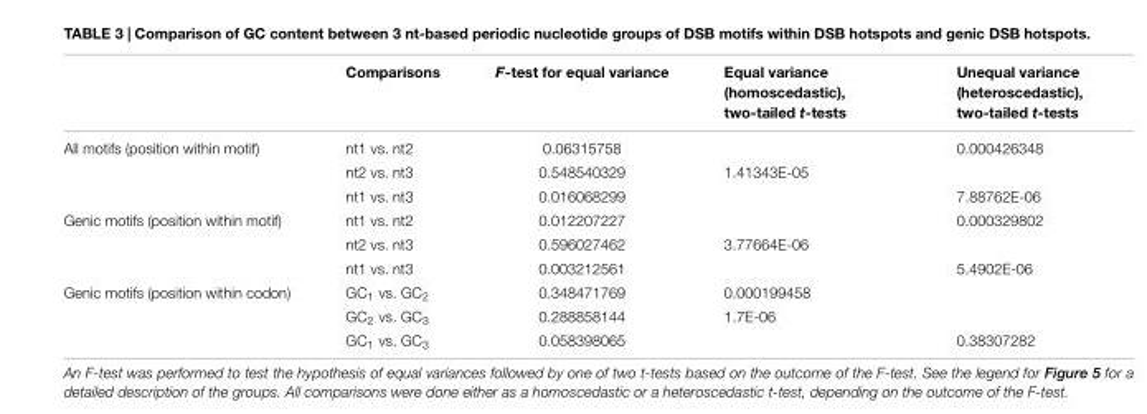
<table><thead><tr><td></td><td>Comparisons</td><td>F-test for equal variance</td><td>Equal variance (homoscedastic), two-tailed t-tests</td><td>Unequal variance (heteroscedastic), two-tailed t-tests</td></tr></thead><tbody><tr><td rowspan="3">All motifs (position within motif)</td><td>nt1 vs. nt2</td><td>0.06315758</td><td></td><td>0.000426348</td></tr><tr><td>nt2 vs. nt3</td><td>0.548540329</td><td>1.41343E-05</td><td></td></tr><tr><td>nt1 vs. nt3</td><td>0.016068299</td><td></td><td>7.88762E-06</td></tr><tr><td rowspan="3">Genic motifs (position within motif)</td><td>nt1 vs. nt2</td><td>0.012207227</td><td></td><td>0.000329802</td></tr><tr><td>nt2 vs. nt3</td><td>0.596027462</td><td>3.77664E-06</td><td></td></tr><tr><td>nt1 vs. nt3</td><td>0.003212561</td><td></td><td>5.4902E-06</td></tr><tr><td rowspan="3">Genic motifs (position within codon)</td><td>GC<sub>1</sub> vs. GC<sub>2</sub></td><td>0.348471769</td><td>0.000199458</td><td></td></tr><tr><td>GC<sub>2</sub> vs. GC<sub>3</sub></td><td>0.288858144</td><td>1.7E-06</td><td></td></tr><tr><td>GC<sub>1</sub> vs. GC<sub>3</sub></td><td>0.058398065</td><td></td><td>0.38307282</td></tr></tbody></table>